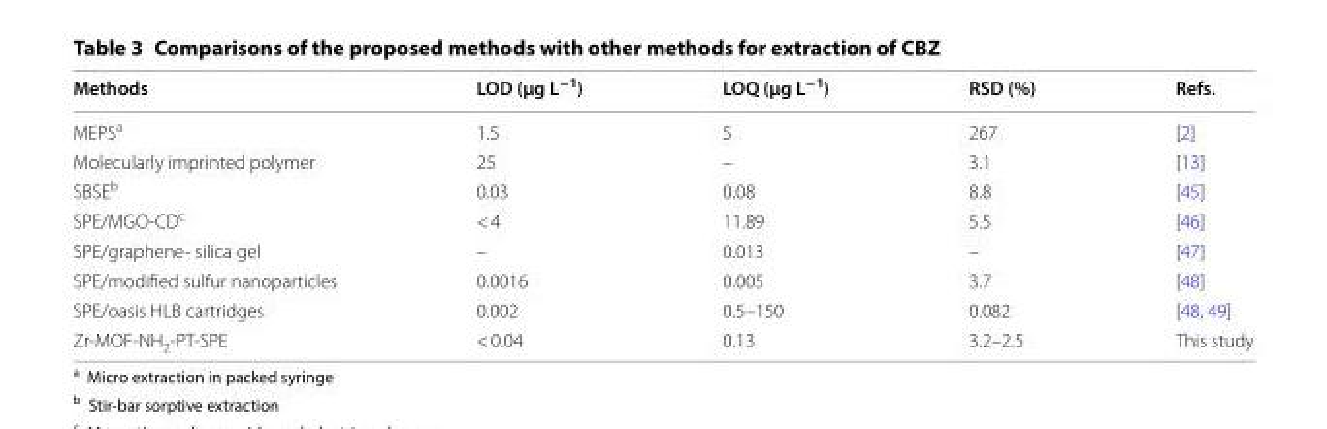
<table><thead><tr><td>Methods</td><td>LOD (µg L<sup>−1</sup>)</td><td>LOQ (µg L<sup>−1</sup>)</td><td>RSD (%)</td><td>Refs.</td></tr></thead><tbody><tr><td>MEPS<sup>a</sup></td><td>1.5</td><td>5</td><td>267</td><td>[2]</td></tr><tr><td>Molecularly imprinted polymer</td><td>25</td><td>–</td><td>3.1</td><td>[13]</td></tr><tr><td>SBSE<sup>b</sup></td><td>0.03</td><td>0.08</td><td>8.8</td><td>[45]</td></tr><tr><td>SPE/MGO-CD<sup>c</sup></td><td>&lt; 4</td><td>11.89</td><td>5.5</td><td>[46]</td></tr><tr><td>SPE/graphene- silica gel</td><td>–</td><td>0.013</td><td>–</td><td>[47]</td></tr><tr><td>SPE/modified sulfur nanoparticles</td><td>0.0016</td><td>0.005</td><td>3.7</td><td>[48]</td></tr><tr><td>SPE/oasis HLB cartridges</td><td>0.002</td><td>0.5–150</td><td>0.082</td><td>[48, 49]</td></tr><tr><td>Zr-MOF-NH<sub>2</sub>-PT-SPE</td><td>&lt; 0.04</td><td>0.13</td><td>3.2–2.5</td><td>This study</td></tr></tbody></table>